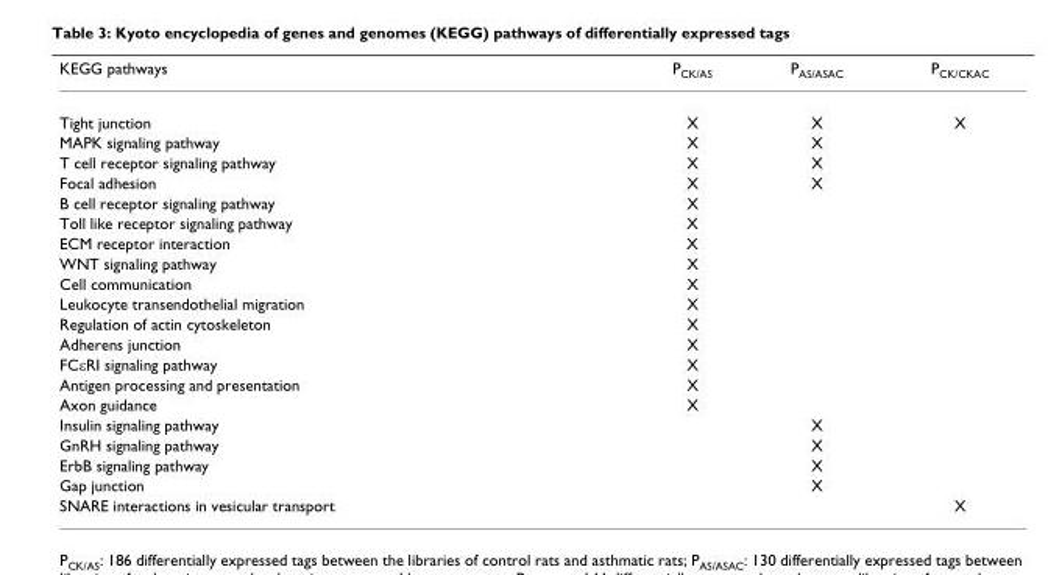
<table><thead><tr><td>KEGG pathways</td><td>P<sub>CK/AS</sub></td><td>P<sub>AS/ASAC</sub></td><td>P<sub>CK/CKAC</sub></td></tr></thead><tbody><tr><td>Tight junction</td><td>X</td><td>X</td><td>X</td></tr><tr><td>MAPK signaling pathway</td><td>X</td><td>X</td><td></td></tr><tr><td>T cell receptor signaling pathway</td><td>X</td><td>X</td><td></td></tr><tr><td>Focal adhesion</td><td>X</td><td>X</td><td></td></tr><tr><td>B cell receptor signaling pathway</td><td>X</td><td></td><td></td></tr><tr><td>Toll like receptor signaling pathway</td><td>X</td><td></td><td></td></tr><tr><td>ECM receptor interaction</td><td>X</td><td></td><td></td></tr><tr><td>WNT signaling pathway</td><td>X</td><td></td><td></td></tr><tr><td>Cell communication</td><td>X</td><td></td><td></td></tr><tr><td>Leukocyte transendothelial migration</td><td>X</td><td></td><td></td></tr><tr><td>Regulation of actin cytoskeleton</td><td>X</td><td></td><td></td></tr><tr><td>Adherens junction</td><td>X</td><td></td><td></td></tr><tr><td>FCεRI signaling pathway</td><td>X</td><td></td><td></td></tr><tr><td>Antigen processing and presentation</td><td>X</td><td></td><td></td></tr><tr><td>Axon guidance</td><td>X</td><td></td><td></td></tr><tr><td>Insulin signaling pathway</td><td></td><td>X</td><td></td></tr><tr><td>GnRH signaling pathway</td><td></td><td>X</td><td></td></tr><tr><td>ErbB signaling pathway</td><td></td><td>X</td><td></td></tr><tr><td>Gap junction</td><td></td><td>X</td><td></td></tr><tr><td>SNARE interactions in vesicular transport</td><td></td><td></td><td>X</td></tr></tbody></table>